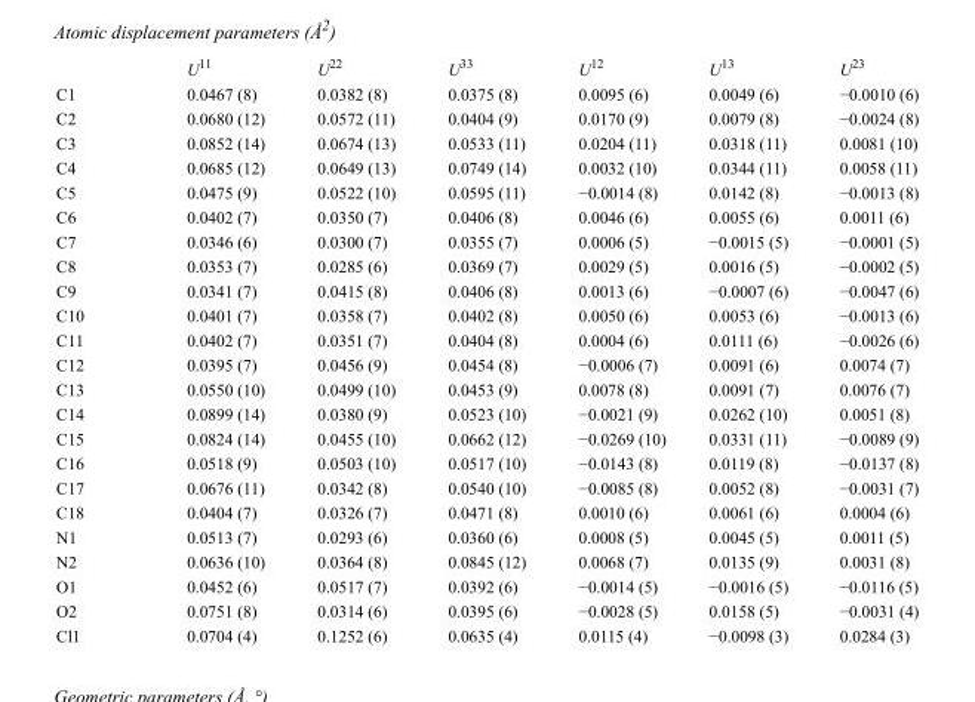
<table><thead><tr><td></td><td>U<sup>11</sup></td><td>U<sup>22</sup></td><td>U<sup>33</sup></td><td>U<sup>12</sup></td><td>U<sup>13</sup></td><td>U<sup>23</sup></td></tr></thead><tbody><tr><td>C1</td><td>0.0467 (8)</td><td>0.0382 (8)</td><td>0.0375 (8)</td><td>0.0095 (6)</td><td>0.0049 (6)</td><td>−0.0010 (6)</td></tr><tr><td>C2</td><td>0.0680 (12)</td><td>0.0572 (11)</td><td>0.0404 (9)</td><td>0.0170 (9)</td><td>0.0079 (8)</td><td>−0.0024 (8)</td></tr><tr><td>C3</td><td>0.0852 (14)</td><td>0.0674 (13)</td><td>0.0533 (11)</td><td>0.0204 (11)</td><td>0.0318 (11)</td><td>0.0081 (10)</td></tr><tr><td>C4</td><td>0.0685 (12)</td><td>0.0649 (13)</td><td>0.0749 (14)</td><td>0.0032 (10)</td><td>0.0344 (11)</td><td>0.0058 (11)</td></tr><tr><td>C5</td><td>0.0475 (9)</td><td>0.0522 (10)</td><td>0.0595 (11)</td><td>−0.0014 (8)</td><td>0.0142 (8)</td><td>−0.0013 (8)</td></tr><tr><td>C6</td><td>0.0402 (7)</td><td>0.0350 (7)</td><td>0.0406 (8)</td><td>0.0046 (6)</td><td>0.0055 (6)</td><td>0.0011 (6)</td></tr><tr><td>C7</td><td>0.0346 (6)</td><td>0.0300 (7)</td><td>0.0355 (7)</td><td>0.0006 (5)</td><td>−0.0015 (5)</td><td>−0.0001 (5)</td></tr><tr><td>C8</td><td>0.0353 (7)</td><td>0.0285 (6)</td><td>0.0369 (7)</td><td>0.0029 (5)</td><td>0.0016 (5)</td><td>−0.0002 (5)</td></tr><tr><td>C9</td><td>0.0341 (7)</td><td>0.0415 (8)</td><td>0.0406 (8)</td><td>0.0013 (6)</td><td>−0.0007 (6)</td><td>−0.0047 (6)</td></tr><tr><td>C10</td><td>0.0401 (7)</td><td>0.0358 (7)</td><td>0.0402 (8)</td><td>0.0050 (6)</td><td>0.0053 (6)</td><td>−0.0013 (6)</td></tr><tr><td>C11</td><td>0.0402 (7)</td><td>0.0351 (7)</td><td>0.0404 (8)</td><td>0.0004 (6)</td><td>0.0111 (6)</td><td>−0.0026 (6)</td></tr><tr><td>C12</td><td>0.0395 (7)</td><td>0.0456 (9)</td><td>0.0454 (8)</td><td>−0.0006 (7)</td><td>0.0091 (6)</td><td>0.0074 (7)</td></tr><tr><td>C13</td><td>0.0550 (10)</td><td>0.0499 (10)</td><td>0.0453 (9)</td><td>0.0078 (8)</td><td>0.0091 (7)</td><td>0.0076 (7)</td></tr><tr><td>C14</td><td>0.0899 (14)</td><td>0.0380 (9)</td><td>0.0523 (10)</td><td>−0.0021 (9)</td><td>0.0262 (10)</td><td>0.0051 (8)</td></tr><tr><td>C15</td><td>0.0824 (14)</td><td>0.0455 (10)</td><td>0.0662 (12)</td><td>−0.0269 (10)</td><td>0.0331 (11)</td><td>−0.0089 (9)</td></tr><tr><td>C16</td><td>0.0518 (9)</td><td>0.0503 (10)</td><td>0.0517 (10)</td><td>−0.0143 (8)</td><td>0.0119 (8)</td><td>−0.0137 (8)</td></tr><tr><td>C17</td><td>0.0676 (11)</td><td>0.0342 (8)</td><td>0.0540 (10)</td><td>−0.0085 (8)</td><td>0.0052 (8)</td><td>−0.0031 (7)</td></tr><tr><td>C18</td><td>0.0404 (7)</td><td>0.0326 (7)</td><td>0.0471 (8)</td><td>0.0010 (6)</td><td>0.0061 (6)</td><td>0.0004 (6)</td></tr><tr><td>N1</td><td>0.0513 (7)</td><td>0.0293 (6)</td><td>0.0360 (6)</td><td>0.0008 (5)</td><td>0.0045 (5)</td><td>0.0011 (5)</td></tr><tr><td>N2</td><td>0.0636 (10)</td><td>0.0364 (8)</td><td>0.0845 (12)</td><td>0.0068 (7)</td><td>0.0135 (9)</td><td>0.0031 (8)</td></tr><tr><td>O1</td><td>0.0452 (6)</td><td>0.0517 (7)</td><td>0.0392 (6)</td><td>−0.0014 (5)</td><td>−0.0016 (5)</td><td>−0.0116 (5)</td></tr><tr><td>O2</td><td>0.0751 (8)</td><td>0.0314 (6)</td><td>0.0395 (6)</td><td>−0.0028 (5)</td><td>0.0158 (5)</td><td>−0.0031 (4)</td></tr><tr><td>Cl1</td><td>0.0704 (4)</td><td>0.1252 (6)</td><td>0.0635 (4)</td><td>0.0115 (4)</td><td>−0.0098 (3)</td><td>0.0284 (3)</td></tr></tbody></table>